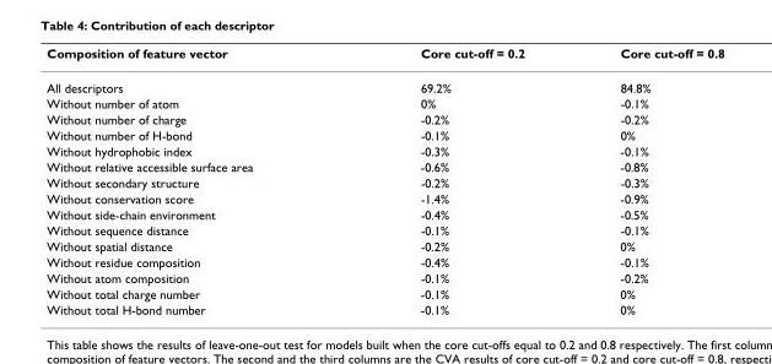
<table><thead><tr><td>Composition of feature vector</td><td>Core cut-off = 0.2</td><td>Core cut-off = 0.8</td></tr></thead><tbody><tr><td>All descriptors</td><td>69.2%</td><td>84.8%</td></tr><tr><td>Without number of atom</td><td>0%</td><td>-0.1%</td></tr><tr><td>Without number of charge</td><td>-0.2%</td><td>-0.2%</td></tr><tr><td>Without number of H-bond</td><td>-0.1%</td><td>0%</td></tr><tr><td>Without hydrophobic index</td><td>-0.3%</td><td>-0.1%</td></tr><tr><td>Without relative accessible surface area</td><td>-0.6%</td><td>-0.8%</td></tr><tr><td>Without secondary structure</td><td>-0.2%</td><td>-0.3%</td></tr><tr><td>Without conservation score</td><td>-1.4%</td><td>-0.9%</td></tr><tr><td>Without side-chain environment</td><td>-0.4%</td><td>-0.5%</td></tr><tr><td>Without sequence distance</td><td>-0.1%</td><td>-0.1%</td></tr><tr><td>Without spatial distance</td><td>-0.2%</td><td>0%</td></tr><tr><td>Without residue composition</td><td>-0.4%</td><td>-0.1%</td></tr><tr><td>Without atom composition</td><td>-0.1%</td><td>-0.2%</td></tr><tr><td>Without total charge number</td><td>-0.1%</td><td>0%</td></tr><tr><td>Without total H-bond number</td><td>-0.1%</td><td>0%</td></tr></tbody></table>